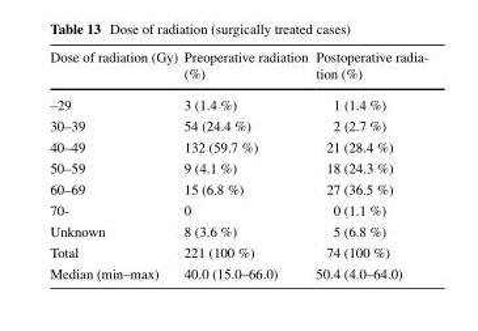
<table><thead><tr><td>Dose of radiation (Gy)</td><td>Preoperative radiation (%)</td><td>Postoperative radia- tion (%)</td></tr></thead><tbody><tr><td>–29</td><td>3 (1.4 %)</td><td>1 (1.4 %)</td></tr><tr><td>30–39</td><td>54 (24.4 %)</td><td>2 (2.7 %)</td></tr><tr><td>40–49</td><td>132 (59.7 %)</td><td>21 (28.4 %)</td></tr><tr><td>50–59</td><td>9 (4.1 %)</td><td>18 (24.3 %)</td></tr><tr><td>60–69</td><td>15 (6.8 %)</td><td>27 (36.5 %)</td></tr><tr><td>70-</td><td>0</td><td>0 (1.1 %)</td></tr><tr><td>Unknown</td><td>8 (3.6 %)</td><td>5 (6.8 %)</td></tr><tr><td>Total</td><td>221 (100 %)</td><td>74 (100 %)</td></tr><tr><td>Median (min–max)</td><td>40.0 (15.0–66.0)</td><td>50.4 (4.0–64.0)</td></tr></tbody></table>